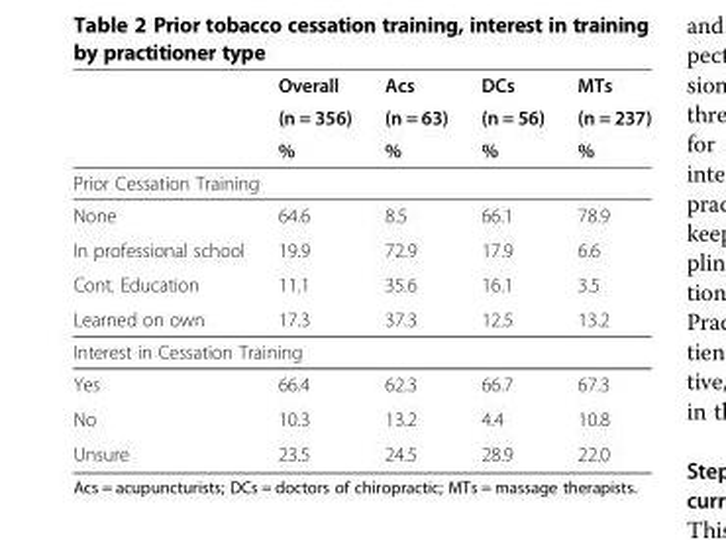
<table><thead><tr><td rowspan="3"></td><td rowspan="3">Overall (n = 356) %</td><td rowspan="3">Acs (n = 63) %</td><td rowspan="3">DCs (n = 56) %</td><td rowspan="3">MTs (n = 237) %</td></tr><tr></tr><tr></tr></thead><tbody><tr><td colspan="5">Prior Cessation Training</td></tr><tr><td>None</td><td>64.6</td><td>8.5</td><td>66.1</td><td>78.9</td></tr><tr><td>In professional school</td><td>19.9</td><td>72.9</td><td>17.9</td><td>6.6</td></tr><tr><td>Cont. Education</td><td>11.1</td><td>35.6</td><td>16.1</td><td>3.5</td></tr><tr><td>Learned on own</td><td>17.3</td><td>37.3</td><td>12.5</td><td>13.2</td></tr><tr><td colspan="5">Interest in Cessation Training</td></tr><tr><td>Yes</td><td>66.4</td><td>62.3</td><td>66.7</td><td>67.3</td></tr><tr><td>No</td><td>10.3</td><td>13.2</td><td>4.4</td><td>10.8</td></tr><tr><td>Unsure</td><td>23.5</td><td>24.5</td><td>28.9</td><td>22.0</td></tr></tbody></table>